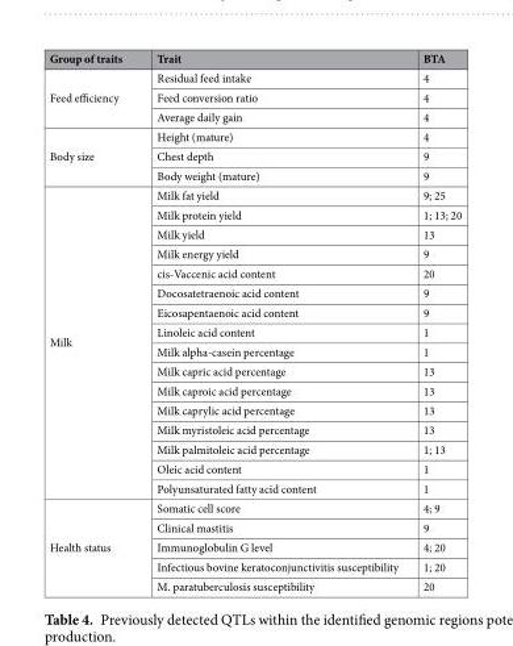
<table><thead><tr><td>Group of traits</td><td>Trait</td><td>BTA</td></tr></thead><tbody><tr><td rowspan="3">Feed efficiency</td><td>Residual feed intake</td><td>4</td></tr><tr><td>Feed conversion ratio</td><td>4</td></tr><tr><td>Average daily gain</td><td>4</td></tr><tr><td rowspan="3">Body size</td><td>Height (mature)</td><td>4</td></tr><tr><td>Chest depth</td><td>9</td></tr><tr><td>Body weight (mature)</td><td>9</td></tr><tr><td rowspan="16">Milk</td><td>Milk fat yield</td><td>9; 25</td></tr><tr><td>Milk protein yield</td><td>1; 13; 20</td></tr><tr><td>Milk yield</td><td>13</td></tr><tr><td>Milk energy yield</td><td>9</td></tr><tr><td>cis-Vaccenic acid content</td><td>20</td></tr><tr><td>Docosatetraenoic acid content</td><td>9</td></tr><tr><td>Eicosapentaenoic acid content</td><td>9</td></tr><tr><td>Linoleic acid content</td><td>1</td></tr><tr><td>Milk alpha-casein percentage</td><td>1</td></tr><tr><td>Milk capric acid percentage</td><td>13</td></tr><tr><td>Milk caproic acid percentage</td><td>13</td></tr><tr><td>Milk caprylic acid percentage</td><td>13</td></tr><tr><td>Milk myristoleic acid percentage</td><td>13</td></tr><tr><td>Milk palmitoleic acid percentage</td><td>1; 13</td></tr><tr><td>Oleic acid content</td><td>1</td></tr><tr><td>Polyunsaturated fatty acid content</td><td>1</td></tr><tr><td rowspan="5">Health status</td><td>Somatic cell score</td><td>4; 9</td></tr><tr><td>Clinical mastitis</td><td>9</td></tr><tr><td>Immunoglobulin G level</td><td>4; 20</td></tr><tr><td>Infectious bovine keratoconjunctivitis susceptibility</td><td>1; 20</td></tr><tr><td>M. paratuberculosis susceptibility</td><td>20</td></tr></tbody></table>